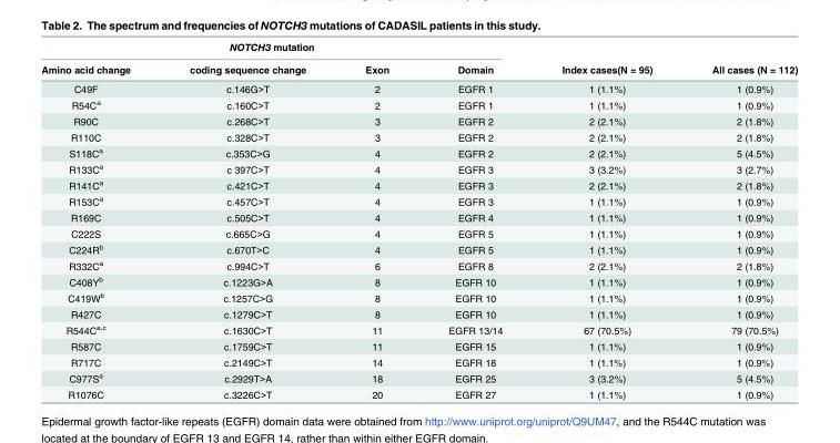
<table><thead><tr><td colspan="4">NOTCH3 mutation</td><td rowspan="2">Index cases(N = 95)</td><td rowspan="2">All cases (N = 112)</td></tr><tr><td>Amino acid change</td><td>coding sequence change</td><td>Exon</td><td>Domain</td></tr></thead><tbody><tr><td>C49F</td><td>c.146G&gt;T</td><td>2</td><td>EGFR 1</td><td>1 (1.1%)</td><td>1 (0.9%)</td></tr><tr><td>R54C<sup>a</sup></td><td>c.160C&gt;T</td><td>2</td><td>EGFR 1</td><td>1 (1.1%)</td><td>1 (0.9%)</td></tr><tr><td>R90C</td><td>c.268C&gt;T</td><td>3</td><td>EGFR 2</td><td>2 (2.1%)</td><td>2 (1.8%)</td></tr><tr><td>R110C</td><td>c.328C&gt;T</td><td>3</td><td>EGFR 2</td><td>2 (2.1%)</td><td>2 (1.8%)</td></tr><tr><td>S118C<sup>a</sup></td><td>c.353C&gt;G</td><td>4</td><td>EGFR 2</td><td>2 (2.1%)</td><td>5 (4.5%)</td></tr><tr><td>R133C<sup>a</sup></td><td>c 397C&gt;T</td><td>4</td><td>EGFR 3</td><td>3 (3.2%)</td><td>3 (2.7%)</td></tr><tr><td>R141C<sup>a</sup></td><td>c.421C&gt;T</td><td>4</td><td>EGFR 3</td><td>2 (2.1%)</td><td>2 (1.8%)</td></tr><tr><td>R153C<sup>a</sup></td><td>c.457C&gt;T</td><td>4</td><td>EGFR 3</td><td>1 (1.1%)</td><td>1 (0.9%)</td></tr><tr><td>R169C</td><td>c.505C&gt;T</td><td>4</td><td>EGFR 4</td><td>1 (1.1%)</td><td>1 (0.9%)</td></tr><tr><td>C222S</td><td>c.665C&gt;G</td><td>4</td><td>EGFR 5</td><td>1 (1.1%)</td><td>1 (0.9%)</td></tr><tr><td>C224R<sup>b</sup></td><td>c.670T&gt;C</td><td>4</td><td>EGFR 5</td><td>1 (1.1%)</td><td>1 (0.9%)</td></tr><tr><td>R332C<sup>a</sup></td><td>c.994C&gt;T</td><td>6</td><td>EGFR 8</td><td>2 (2.1%)</td><td>2 (1.8%)</td></tr><tr><td>C408Y<sup>b</sup></td><td>c.1223G&gt;A</td><td>8</td><td>EGFR 10</td><td>1 (1.1%)</td><td>1 (0.9%)</td></tr><tr><td>C419W<sup>b</sup></td><td>c.1257C&gt;G</td><td>8</td><td>EGFR 10</td><td>1 (1.1%)</td><td>1 (0.9%)</td></tr><tr><td>R427C</td><td>c.1279C&gt;T</td><td>8</td><td>EGFR 10</td><td>1 (1.1%)</td><td>1 (0.9%)</td></tr><tr><td>R544C<sup>a,c</sup></td><td>c.1630C&gt;T</td><td>11</td><td>EGFR 13/14</td><td>67 (70.5%)</td><td>79 (70.5%)</td></tr><tr><td>R587C</td><td>c.1759C&gt;T</td><td>11</td><td>EGFR 15</td><td>1 (1.1%)</td><td>1 (0.9%)</td></tr><tr><td>R717C</td><td>c.2149C&gt;T</td><td>14</td><td>EGFR 18</td><td>1 (1.1%)</td><td>1 (0.9%)</td></tr><tr><td>C977S<sup>a</sup></td><td>c.2929T&gt;A</td><td>18</td><td>EGFR 25</td><td>3 (3.2%)</td><td>5 (4.5%)</td></tr><tr><td>R1076C</td><td>c.3226C&gt;T</td><td>20</td><td>EGFR 27</td><td>1 (1.1%)</td><td>1 (0.9%)</td></tr></tbody></table>